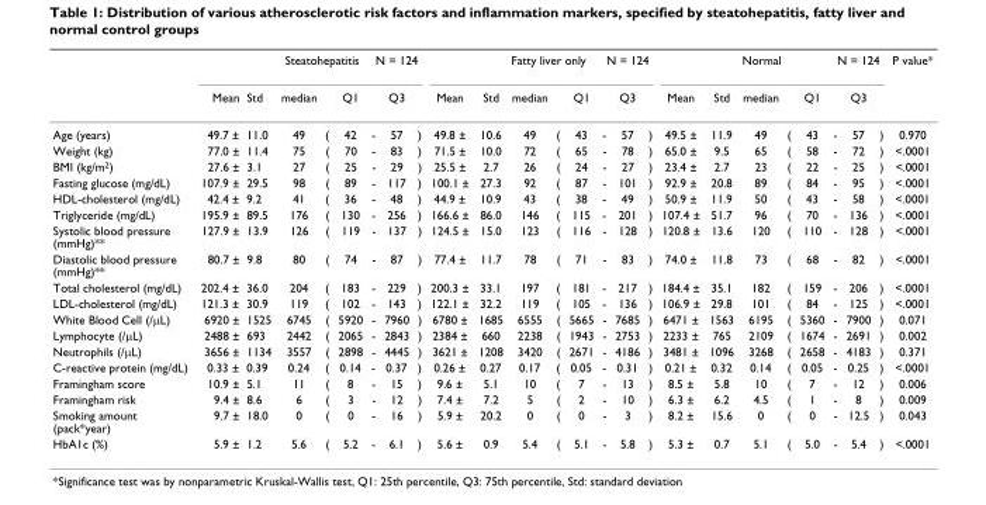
<table><thead><tr><td rowspan="2"></td><td rowspan="2">Mean</td><td rowspan="2">Std</td><td colspan="3">Steatohepatitis</td><td colspan="3">N = 124</td><td rowspan="2">Mean</td><td rowspan="2">Std</td><td colspan="3">Fatty liver only</td><td colspan="3">N = 124</td><td rowspan="2">Mean</td><td rowspan="2">Std</td><td colspan="3">Normal</td><td colspan="3">N = 124</td><td rowspan="2">P value*</td></tr><tr><td>median</td><td></td><td>Q1</td><td></td><td>Q3</td><td></td><td>median</td><td></td><td>Q1</td><td></td><td>Q3</td><td></td><td>median</td><td></td><td>Q1</td><td></td><td>Q3</td><td></td></tr></thead><tbody><tr><td>Age (years)</td><td>49.7 ±</td><td>11.0</td><td>49</td><td>(</td><td>42</td><td>-</td><td>57</td><td>)</td><td>49.8 ±</td><td>10.6</td><td>49</td><td>(</td><td>43</td><td>-</td><td>57</td><td>)</td><td>49.5 ±</td><td>11.9</td><td>49</td><td>(</td><td>43</td><td>-</td><td>57</td><td>)</td><td>0.970</td></tr><tr><td>Weight (kg)</td><td>77.0 ±</td><td>11.4</td><td>75</td><td>(</td><td>70</td><td>-</td><td>83</td><td>)</td><td>71.5 ±</td><td>10.0</td><td>72</td><td>(</td><td>65</td><td>-</td><td>78</td><td>)</td><td>65.0 ±</td><td>9.5</td><td>65</td><td>(</td><td>58</td><td>-</td><td>72</td><td>)</td><td>&lt;.0001</td></tr><tr><td>BMI (kg/m<sup>2</sup>)</td><td>27.6 ±</td><td>3.1</td><td>27</td><td>(</td><td>25</td><td>-</td><td>29</td><td>)</td><td>25.5 ±</td><td>2.7</td><td>26</td><td>(</td><td>24</td><td>-</td><td>27</td><td>)</td><td>23.4 ±</td><td>2.7</td><td>23</td><td>(</td><td>22</td><td>-</td><td>25</td><td>)</td><td>&lt;.0001</td></tr><tr><td>Fasting glucose (mg/dL)</td><td>107.9 ±</td><td>29.5</td><td>98</td><td>(</td><td>89</td><td>-</td><td>117</td><td>)</td><td>100.1 ±</td><td>27.3</td><td>92</td><td>(</td><td>87</td><td>-</td><td>101</td><td>)</td><td>92.9 ±</td><td>20.8</td><td>89</td><td>(</td><td>84</td><td>-</td><td>95</td><td>)</td><td>&lt;.0001</td></tr><tr><td>HDL-cholesterol (mg/dL)</td><td>42.4 ±</td><td>9.2</td><td>41</td><td>(</td><td>36</td><td>-</td><td>48</td><td>)</td><td>44.9 ±</td><td>10.9</td><td>43</td><td>(</td><td>38</td><td>-</td><td>49</td><td>)</td><td>50.9 ±</td><td>11.9</td><td>50</td><td>(</td><td>43</td><td>-</td><td>58</td><td>)</td><td>&lt;.0001</td></tr><tr><td>Triglyceride (mg/dL)</td><td>195.9 ±</td><td>89.5</td><td>176</td><td>(</td><td>130</td><td>-</td><td>256</td><td>)</td><td>166.6 ±</td><td>86.0</td><td>146</td><td>(</td><td>115</td><td>-</td><td>201</td><td>)</td><td>107.4 ±</td><td>51.7</td><td>96</td><td>(</td><td>70</td><td>-</td><td>136</td><td>)</td><td>&lt;.0001</td></tr><tr><td>Systolic blood pressure (mmHg)**</td><td>127.9 ±</td><td>13.9</td><td>126</td><td>(</td><td>119</td><td>-</td><td>137</td><td>)</td><td>124.5 ±</td><td>15.0</td><td>123</td><td>(</td><td>116</td><td>-</td><td>128</td><td>)</td><td>120.8 ±</td><td>13.6</td><td>120</td><td>(</td><td>110</td><td>-</td><td>128</td><td>)</td><td>&lt;.0001</td></tr><tr><td>Diastolic blood pressure (mmHg)**</td><td>80.7 ±</td><td>9.8</td><td>80</td><td>(</td><td>74</td><td>-</td><td>87</td><td>)</td><td>77.4 ±</td><td>11.7</td><td>78</td><td>(</td><td>71</td><td>-</td><td>83</td><td>)</td><td>74.0 ±</td><td>11.8</td><td>73</td><td>(</td><td>68</td><td>-</td><td>82</td><td>)</td><td>&lt;.0001</td></tr><tr><td>Total cholesterol (mg/dL)</td><td>202.4 ±</td><td>36.0</td><td>204</td><td>(</td><td>183</td><td>-</td><td>229</td><td>)</td><td>200.3 ±</td><td>33.1</td><td>197</td><td>(</td><td>181</td><td>-</td><td>217</td><td>)</td><td>184.4 ±</td><td>35.1</td><td>182</td><td>(</td><td>159</td><td>-</td><td>206</td><td>)</td><td>&lt;.0001</td></tr><tr><td>LDL-cholesterol (mg/dL)</td><td>121.3 ±</td><td>30.9</td><td>119</td><td>(</td><td>102</td><td>-</td><td>143</td><td>)</td><td>122.1 ±</td><td>32.2</td><td>119</td><td>(</td><td>105</td><td>-</td><td>136</td><td>)</td><td>106.9 ±</td><td>29.8</td><td>101</td><td>(</td><td>84</td><td>-</td><td>125</td><td>)</td><td>&lt;.0001</td></tr><tr><td>White Blood Cell (/µL)</td><td>6920 ±</td><td>1525</td><td>6745</td><td>(</td><td>5920</td><td>-</td><td>7960</td><td>)</td><td>6780 ±</td><td>1685</td><td>6555</td><td>(</td><td>5665</td><td>-</td><td>7685</td><td>)</td><td>6471 ±</td><td>1563</td><td>6195</td><td>(</td><td>5360</td><td>-</td><td>7900</td><td>)</td><td>0.071</td></tr><tr><td>Lymphocyte (/µL)</td><td>2488 ±</td><td>693</td><td>2442</td><td>(</td><td>2065</td><td>-</td><td>2843</td><td>)</td><td>2384 ±</td><td>660</td><td>2238</td><td>(</td><td>1943</td><td>-</td><td>2753</td><td>)</td><td>2233 ±</td><td>765</td><td>2109</td><td>(</td><td>1674</td><td>-</td><td>2691</td><td>)</td><td>0.002</td></tr><tr><td>Neutrophils (/µL)</td><td>3656 ±</td><td>1134</td><td>3557</td><td>(</td><td>2898</td><td>-</td><td>4445</td><td>)</td><td>3621 ±</td><td>1208</td><td>3420</td><td>(</td><td>2671</td><td>-</td><td>4186</td><td>)</td><td>3481 ±</td><td>1096</td><td>3268</td><td>(</td><td>2658</td><td>-</td><td>4183</td><td>)</td><td>0.371</td></tr><tr><td>C-reactive protein (mg/dL)</td><td>0.33 ±</td><td>0.39</td><td>0.24</td><td>(</td><td>0.14</td><td>-</td><td>0.37</td><td>)</td><td>0.26 ±</td><td>0.27</td><td>0.17</td><td>(</td><td>0.05</td><td>-</td><td>0.31</td><td>)</td><td>0.21 ±</td><td>0.32</td><td>0.14</td><td>(</td><td>0.05</td><td>-</td><td>0.25</td><td>)</td><td>&lt;.0001</td></tr><tr><td>Framingham score</td><td>10.9 ±</td><td>5.1</td><td>11</td><td>(</td><td>8</td><td>-</td><td>15</td><td>)</td><td>9.6 ±</td><td>5.1</td><td>10</td><td>(</td><td>7</td><td>-</td><td>13</td><td>)</td><td>8.5 ±</td><td>5.8</td><td>10</td><td>(</td><td>7</td><td>-</td><td>12</td><td>)</td><td>0.006</td></tr><tr><td>Framingham risk</td><td>9.4 ±</td><td>8.6</td><td>6</td><td>(</td><td>3</td><td>-</td><td>12</td><td>)</td><td>7.4 ±</td><td>7.2</td><td>5</td><td>(</td><td>2</td><td>-</td><td>10</td><td>)</td><td>6.3 ±</td><td>6.2</td><td>4.5</td><td>(</td><td>1</td><td>-</td><td>8</td><td>)</td><td>0.009</td></tr><tr><td>Smoking amount (pack*year)</td><td>9.7 ±</td><td>18.0</td><td>0</td><td>(</td><td>0</td><td>-</td><td>16</td><td>)</td><td>5.9 ±</td><td>20.2</td><td>0</td><td>(</td><td>0</td><td>-</td><td>3</td><td>)</td><td>8.2 ±</td><td>15.6</td><td>0</td><td>(</td><td>0</td><td>-</td><td>12.5</td><td>)</td><td>0.043</td></tr><tr><td>HbA1c (%)</td><td>5.9 ±</td><td>1.2</td><td>5.6</td><td>(</td><td>5.2</td><td>-</td><td>6.1</td><td>)</td><td>5.6 ±</td><td>0.9</td><td>5.4</td><td>(</td><td>5.1</td><td>-</td><td>5.8</td><td>)</td><td>5.3 ±</td><td>0.7</td><td>5.1</td><td>(</td><td>5.0</td><td>-</td><td>5.4</td><td>)</td><td>&lt;.0001</td></tr></tbody></table>